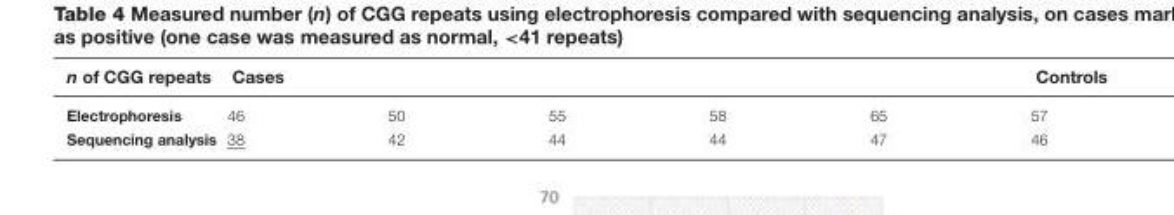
<table><thead><tr><td>n of CGG repeats</td><td>Cases</td><td></td><td></td><td></td><td></td><td>Controls</td></tr></thead><tbody><tr><td>Electrophoresis</td><td>46</td><td>50</td><td>55</td><td>58</td><td>65</td><td>57</td></tr><tr><td>Sequencing analysis</td><td>38</td><td>42</td><td>44</td><td>44</td><td>47</td><td>46</td></tr></tbody></table>